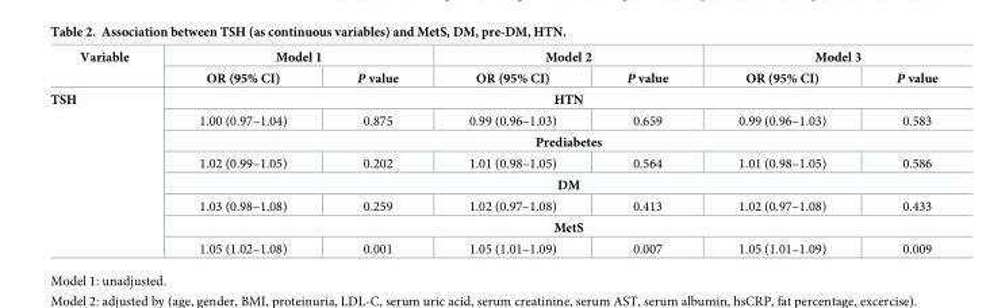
<table><thead><tr><td rowspan="2">Variable</td><td colspan="2">Model 1</td><td colspan="2">Model 2</td><td colspan="2">Model 3</td></tr><tr><td>OR (95% CI)</td><td>P value</td><td>OR (95% CI)</td><td>P value</td><td>OR (95% CI)</td><td>P value</td></tr></thead><tbody><tr><td rowspan="8">TSH</td><td colspan="6">HTN</td></tr><tr><td>1.00 (0.97–1.04)</td><td>0.875</td><td>0.99 (0.96–1.03)</td><td>0.659</td><td>0.99 (0.96–1.03)</td><td>0.583</td></tr><tr><td colspan="6">Prediabetes</td></tr><tr><td>1.02 (0.99–1.05)</td><td>0.202</td><td>1.01 (0.98–1.05)</td><td>0.564</td><td>1.01 (0.98–1.05)</td><td>0.586</td></tr><tr><td colspan="6">DM</td></tr><tr><td>1.03 (0.98–1.08)</td><td>0.259</td><td>1.02 (0.97–1.08)</td><td>0.413</td><td>1.02 (0.97–1.08)</td><td>0.433</td></tr><tr><td colspan="6">MetS</td></tr><tr><td>1.05 (1.02–1.08)</td><td>0.001</td><td>1.05 (1.01–1.09)</td><td>0.007</td><td>1.05 (1.01–1.09)</td><td>0.009</td></tr></tbody></table>